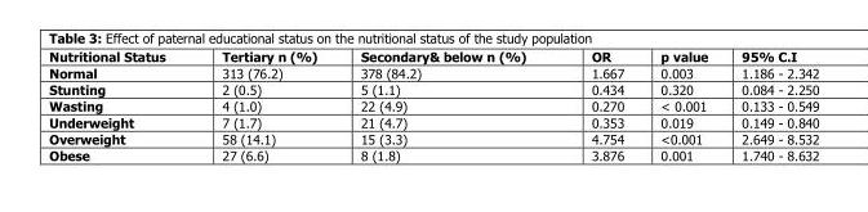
<table><thead><tr><td>Nutritional Status</td><td>Tertiary n (%)</td><td>Secondary&amp; below n (%)</td><td>OR</td><td>p value</td><td>95% C.I</td></tr></thead><tbody><tr><td>Normal</td><td>313 (76.2)</td><td>378 (84.2)</td><td>1.667</td><td>0.003</td><td>1.186 - 2.342</td></tr><tr><td>Stunting</td><td>2 (0.5)</td><td>5 (1.1)</td><td>0.434</td><td>0.320</td><td>0.084 - 2.250</td></tr><tr><td>Wasting</td><td>4 (1.0)</td><td>22 (4.9)</td><td>0.270</td><td>&lt; 0.001</td><td>0.133 - 0.549</td></tr><tr><td>Underweight</td><td>7 (1.7)</td><td>21 (4.7)</td><td>0.353</td><td>0.019</td><td>0.149 - 0.840</td></tr><tr><td>Overweight</td><td>58 (14.1)</td><td>15 (3.3)</td><td>4.754</td><td>&lt;0.001</td><td>2.649 - 8.532</td></tr><tr><td>Obese</td><td>27 (6.6)</td><td>8 (1.8)</td><td>3.876</td><td>0.001</td><td>1.740 - 8.632</td></tr></tbody></table>